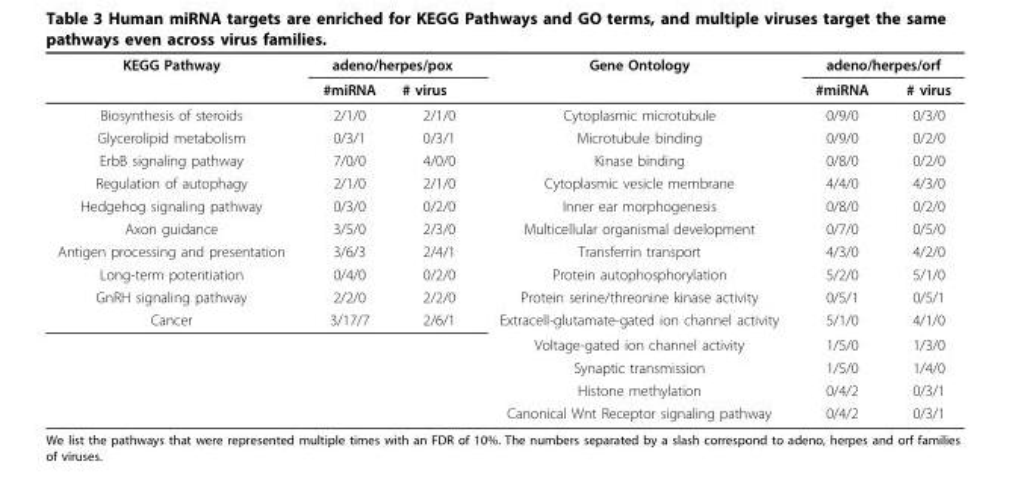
<table><thead><tr><td rowspan="2">KEGG Pathway</td><td colspan="2">adeno/herpes/pox</td><td rowspan="2">Gene Ontology</td><td colspan="2">adeno/herpes/orf</td></tr><tr><td>#miRNA</td><td># virus</td><td>#miRNA</td><td># virus</td></tr></thead><tbody><tr><td>Biosynthesis of steroids</td><td>2/1/0</td><td>2/1/0</td><td>Cytoplasmic microtubule</td><td>0/9/0</td><td>0/3/0</td></tr><tr><td>Glycerolipid metabolism</td><td>0/3/1</td><td>0/3/1</td><td>Microtubule binding</td><td>0/9/0</td><td>0/2/0</td></tr><tr><td>ErbB signaling pathway</td><td>7/0/0</td><td>4/0/0</td><td>Kinase binding</td><td>0/8/0</td><td>0/2/0</td></tr><tr><td>Regulation of autophagy</td><td>2/1/0</td><td>2/1/0</td><td>Cytoplasmic vesicle membrane</td><td>4/4/0</td><td>4/3/0</td></tr><tr><td>Hedgehog signaling pathway</td><td>0/3/0</td><td>0/2/0</td><td>Inner ear morphogenesis</td><td>0/8/0</td><td>0/2/0</td></tr><tr><td>Axon guidance</td><td>3/5/0</td><td>2/3/0</td><td>Multicellular organismal development</td><td>0/7/0</td><td>0/5/0</td></tr><tr><td>Antigen processing and presentation</td><td>3/6/3</td><td>2/4/1</td><td>Transferrin transport</td><td>4/3/0</td><td>4/2/0</td></tr><tr><td>Long-term potentiation</td><td>0/4/0</td><td>0/2/0</td><td>Protein autophosphorylation</td><td>5/2/0</td><td>5/1/0</td></tr><tr><td>GnRH signaling pathway</td><td>2/2/0</td><td>2/2/0</td><td>Protein serine/threonine kinase activity</td><td>0/5/1</td><td>0/5/1</td></tr><tr><td rowspan="5">Cancer</td><td>3/17/7</td><td>2/6/1</td><td>Extracell-glutamate-gated ion channel activity</td><td>5/1/0</td><td>4/1/0</td></tr><tr><td></td><td></td><td>Voltage-gated ion channel activity</td><td>1/5/0</td><td>1/3/0</td></tr><tr><td></td><td></td><td>Synaptic transmission</td><td>1/5/0</td><td>1/4/0</td></tr><tr><td></td><td></td><td>Histone methylation</td><td>0/4/2</td><td>0/3/1</td></tr><tr><td></td><td></td><td>Canonical Wnt Receptor signaling pathway</td><td>0/4/2</td><td>0/3/1</td></tr></tbody></table>